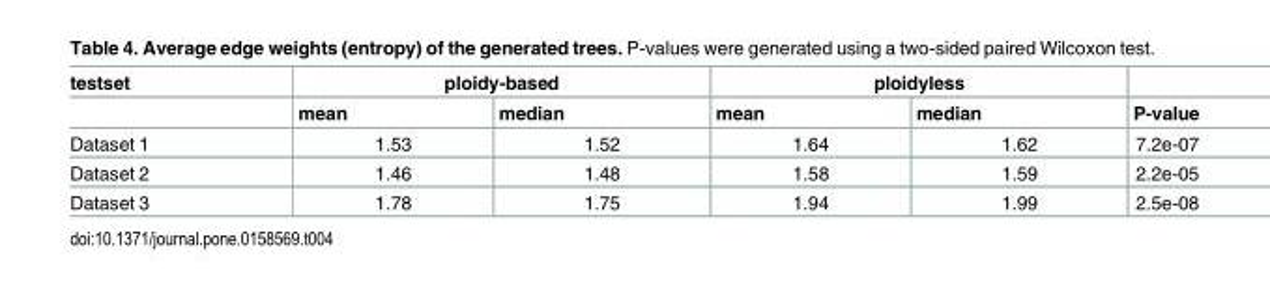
<table><thead><tr><td rowspan="2">testset</td><td colspan="2">ploidy-based</td><td colspan="2">ploidyless</td><td rowspan="2">P-value</td></tr><tr><td>mean</td><td>median</td><td>mean</td><td>median</td></tr></thead><tbody><tr><td>Dataset 1</td><td>1.53</td><td>1.52</td><td>1.64</td><td>1.62</td><td>7.2e-07</td></tr><tr><td>Dataset 2</td><td>1.46</td><td>1.48</td><td>1.58</td><td>1.59</td><td>2.2e-05</td></tr><tr><td>Dataset 3</td><td>1.78</td><td>1.75</td><td>1.94</td><td>1.99</td><td>2.5e-08</td></tr></tbody></table>